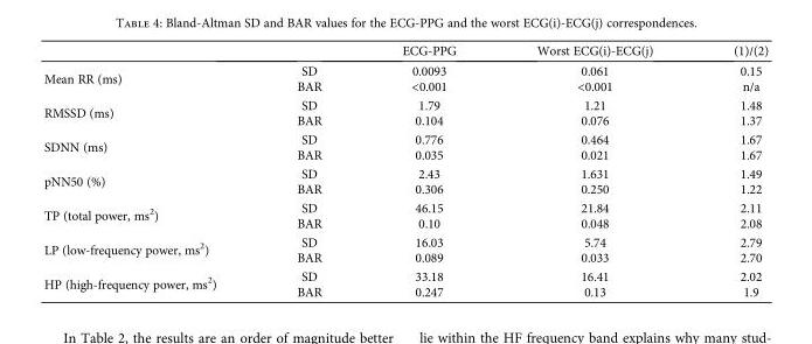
<table><thead><tr><td></td><td></td><td>ECG-PPG</td><td>Worst ECG(i)-ECG(j)</td><td>(1)/(2)</td></tr></thead><tbody><tr><td>Mean RR (ms)</td><td>SD BAR</td><td>0.0093 &lt;0.001</td><td>0.061 &lt;0.001</td><td>0.15 n/a</td></tr><tr><td>RMSSD (ms)</td><td>SD BAR</td><td>1.79 0.104</td><td>1.21 0.076</td><td>1.48 1.37</td></tr><tr><td>SDNN (ms)</td><td>SD BAR</td><td>0.776 0.035</td><td>0.464 0.021</td><td>1.67 1.67</td></tr><tr><td>pNN50 (%)</td><td>SD BAR</td><td>2.43 0.306</td><td>1.631 0.250</td><td>1.49 1.22</td></tr><tr><td>TP (total power, ms<sup>2</sup>)</td><td>SD BAR</td><td>46.15 0.10</td><td>21.84 0.048</td><td>2.11 2.08</td></tr><tr><td>LP (low-frequency power, ms<sup>2</sup>)</td><td>SD BAR</td><td>16.03 0.089</td><td>5.74 0.033</td><td>2.79 2.70</td></tr><tr><td>HP (high-frequency power, ms<sup>2</sup>)</td><td>SD BAR</td><td>33.18 0.247</td><td>16.41 0.13</td><td>2.02 1.9</td></tr></tbody></table>